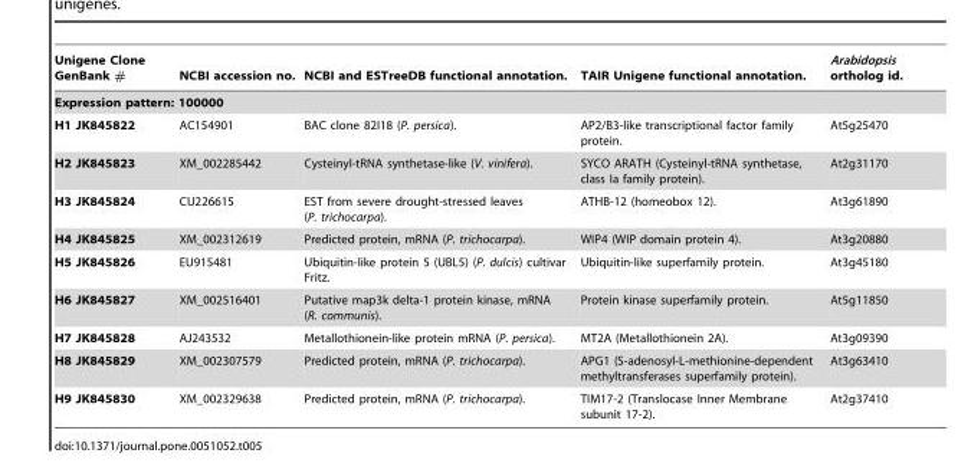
<table><thead><tr><td>Unigene Clone GenBank #</td><td>NCBI accession no.</td><td>NCBI and ESTreeDB functional annotation.</td><td>TAIR Unigene functional annotation.</td><td>Arabidopsis ortholog id.</td></tr></thead><tbody><tr><td colspan="5">Expression pattern: 100000</td></tr><tr><td>H1 JK845822</td><td>AC154901</td><td>BAC clone 82I18 (P. persica).</td><td>AP2/B3-like transcriptional factor family protein.</td><td>At5g25470</td></tr><tr><td>H2 JK845823</td><td>XM_002285442</td><td>Cysteinyl-tRNA synthetase-like (V. vinifera).</td><td>SYCO ARATH (Cysteinyl-tRNA synthetase, class Ia family protein).</td><td>At2g31170</td></tr><tr><td>H3 JK845824</td><td>CU226615</td><td>EST from severe drought-stressed leaves (P. trichocarpa).</td><td>ATHB-12 (homeobox 12).</td><td>At3g61890</td></tr><tr><td>H4 JK845825</td><td>XM_002312619</td><td>Predicted protein, mRNA (P. trichocarpa).</td><td>WIP4 (WIP domain protein 4).</td><td>At3g20880</td></tr><tr><td>H5 JK845826</td><td>EU915481</td><td>Ubiquitin-like protein 5 (UBL5) (P. dulcis) cultivar Fritz.</td><td>Ubiquitin-like superfamily protein.</td><td>At3g45180</td></tr><tr><td>H6 JK845827</td><td>XM_002516401</td><td>Putative map3k delta-1 protein kinase, mRNA (R. communis).</td><td>Protein kinase superfamily protein.</td><td>At5g11850</td></tr><tr><td>H7 JK845828</td><td>AJ243532</td><td>Metallothionein-like protein mRNA (P. persica).</td><td>MT2A (Metallothionein 2A).</td><td>At3g09390</td></tr><tr><td>H8 JK845829</td><td>XM_002307579</td><td>Predicted protein, mRNA (P. trichocarpa).</td><td>APG1 (S-adenosyl-L-methionine-dependent methyltransferases superfamily protein).</td><td>At3g63410</td></tr><tr><td>H9 JK845830</td><td>XM_002329638</td><td>Predicted protein, mRNA (P. trichocarpa).</td><td>TIM17-2 (Translocase Inner Membrane subunit 17-2).</td><td>At2g37410</td></tr></tbody></table>